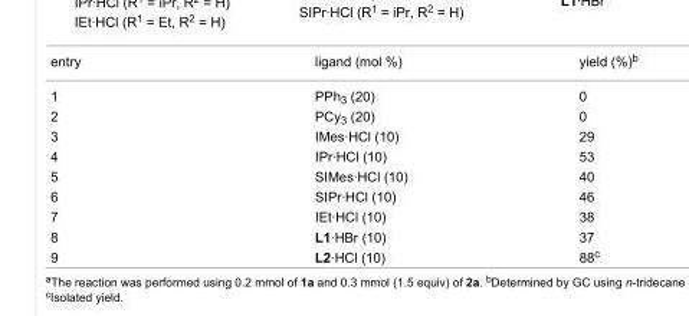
<table><tbody><tr><td>entry</td><td>ligand (mol %)</td><td>yield (%)<sup>b</sup></td></tr><tr><td>1</td><td>PPh<sub>3</sub> (20)</td><td>0</td></tr><tr><td>2</td><td>PCy<sub>3</sub> (20)</td><td>0</td></tr><tr><td>3</td><td>IMes·HCl (10)</td><td>29</td></tr><tr><td>4</td><td>IPr·HCl (10)</td><td>53</td></tr><tr><td>5</td><td>SIMes·HCl (10)</td><td>40</td></tr><tr><td>6</td><td>SIPr·HCl (10)</td><td>46</td></tr><tr><td>7</td><td>IEt·HCl (10)</td><td>38</td></tr><tr><td>8</td><td>L1·HBr (10)</td><td>37</td></tr><tr><td>9</td><td>L2·HCl (10)</td><td>88<sup>c</sup></td></tr></tbody></table>